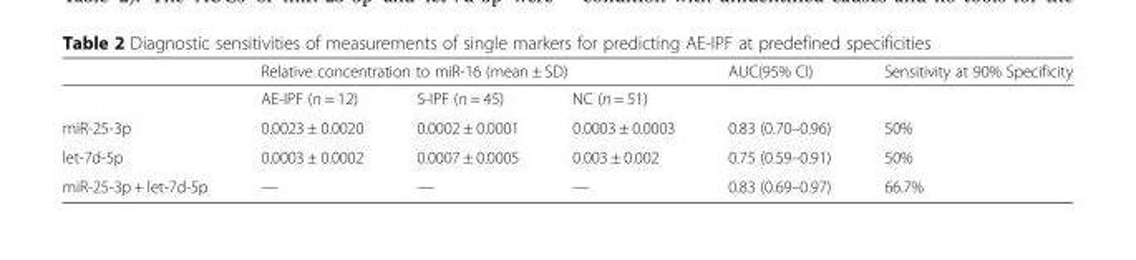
<table><thead><tr><td rowspan="2"></td><td colspan="3">Relative concentration to miR-16 (mean ± SD)</td><td rowspan="2">AUC(95% CI)</td><td rowspan="2">Sensitivity at 90% Specificity</td></tr><tr><td>AE-IPF (n = 12)</td><td>S-IPF (n = 45)</td><td>NC (n = 51)</td></tr></thead><tbody><tr><td>miR-25-3p</td><td>0.0023 ± 0.0020</td><td>0.0002 ± 0.0001</td><td>0.0003 ± 0.0003</td><td>0.83 (0.70–0.96)</td><td>50%</td></tr><tr><td>let-7d-5p</td><td>0.0003 ± 0.0002</td><td>0.0007 ± 0.0005</td><td>0.003 ± 0.002</td><td>0.75 (0.59–0.91)</td><td>50%</td></tr><tr><td>miR-25-3p + let-7d-5p</td><td>—</td><td>—</td><td>—</td><td>0.83 (0.69–0.97)</td><td>66.7%</td></tr></tbody></table>